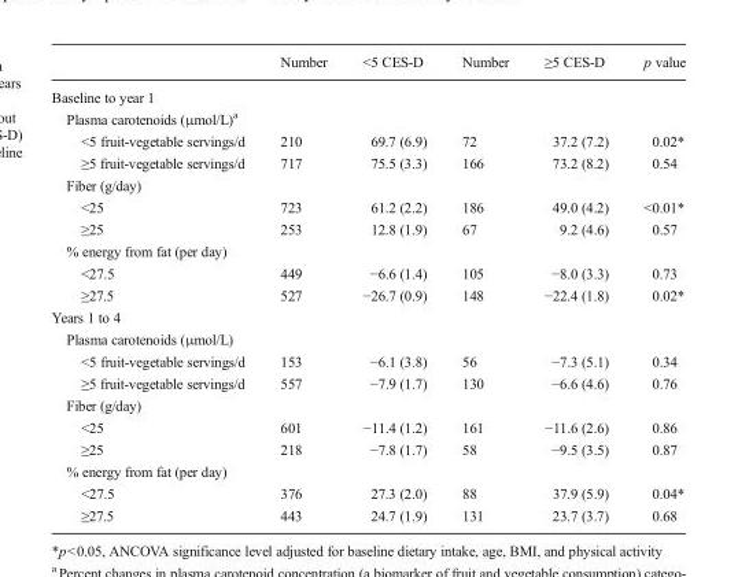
<table><thead><tr><td></td><td>Number</td><td>&lt;5 CES-D</td><td>Number</td><td>≥5 CES-D</td><td>p value</td></tr></thead><tbody><tr><td colspan="6">Baseline to year 1</td></tr><tr><td colspan="6">Plasma carotenoids (μmol/L)<sup>a</sup></td></tr><tr><td>&lt;5 fruit-vegetable servings/d</td><td>210</td><td>69.7 (6.9)</td><td>72</td><td>37.2 (7.2)</td><td>0.02*</td></tr><tr><td>≥5 fruit-vegetable servings/d</td><td>717</td><td>75.5 (3.3)</td><td>166</td><td>73.2 (8.2)</td><td>0.54</td></tr><tr><td colspan="6">Fiber (g/day)</td></tr><tr><td>&lt;25</td><td>723</td><td>61.2 (2.2)</td><td>186</td><td>49.0 (4.2)</td><td>&lt;0.01*</td></tr><tr><td>≥25</td><td>253</td><td>12.8 (1.9)</td><td>67</td><td>9.2 (4.6)</td><td>0.57</td></tr><tr><td colspan="6">% energy from fat (per day)</td></tr><tr><td>&lt;27.5</td><td>449</td><td>−6.6 (1.4)</td><td>105</td><td>−8.0 (3.3)</td><td>0.73</td></tr><tr><td>≥27.5</td><td>527</td><td>−26.7 (0.9)</td><td>148</td><td>−22.4 (1.8)</td><td>0.02*</td></tr><tr><td colspan="6">Years 1 to 4</td></tr><tr><td colspan="6">Plasma carotenoids (μmol/L)</td></tr><tr><td>&lt;5 fruit-vegetable servings/d</td><td>153</td><td>−6.1 (3.8)</td><td>56</td><td>−7.3 (5.1)</td><td>0.34</td></tr><tr><td>≥5 fruit-vegetable servings/d</td><td>557</td><td>−7.9 (1.7)</td><td>130</td><td>−6.6 (4.6)</td><td>0.76</td></tr><tr><td colspan="6">Fiber (g/day)</td></tr><tr><td>&lt;25</td><td>601</td><td>−11.4 (1.2)</td><td>161</td><td>−11.6 (2.6)</td><td>0.86</td></tr><tr><td>≥25</td><td>218</td><td>−7.8 (1.7)</td><td>58</td><td>−9.5 (3.5)</td><td>0.87</td></tr><tr><td colspan="6">% energy from fat (per day)</td></tr><tr><td>&lt;27.5</td><td>376</td><td>27.3 (2.0)</td><td>88</td><td>37.9 (5.9)</td><td>0.04*</td></tr><tr><td>≥27.5</td><td>443</td><td>24.7 (1.9)</td><td>131</td><td>23.7 (3.7)</td><td>0.68</td></tr></tbody></table>